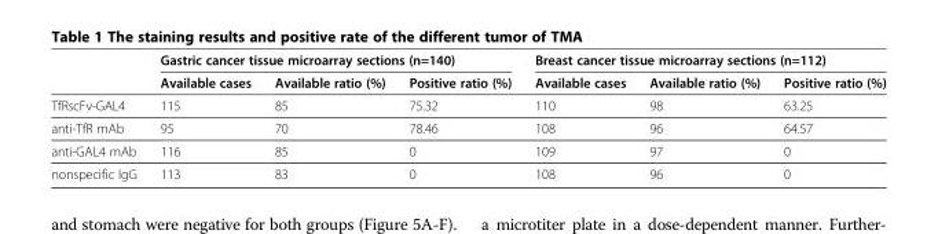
<table><thead><tr><td rowspan="2"></td><td colspan="3">Gastric cancer tissue microarray sections (n=140)</td><td colspan="3">Breast cancer tissue microarray sections (n=112)</td></tr><tr><td>Available cases</td><td>Available ratio (%)</td><td>Positive ratio (%)</td><td>Available cases</td><td>Available ratio (%)</td><td>Positive ratio (%)</td></tr></thead><tbody><tr><td>TfRscFv-GAL4</td><td>115</td><td>85</td><td>75.32</td><td>110</td><td>98</td><td>63.25</td></tr><tr><td>anti-TfR mAb</td><td>95</td><td>70</td><td>78.46</td><td>108</td><td>96</td><td>64.57</td></tr><tr><td>anti-GAL4 mAb</td><td>116</td><td>85</td><td>0</td><td>109</td><td>97</td><td>0</td></tr><tr><td>nonspecific IgG</td><td>113</td><td>83</td><td>0</td><td>108</td><td>96</td><td>0</td></tr></tbody></table>